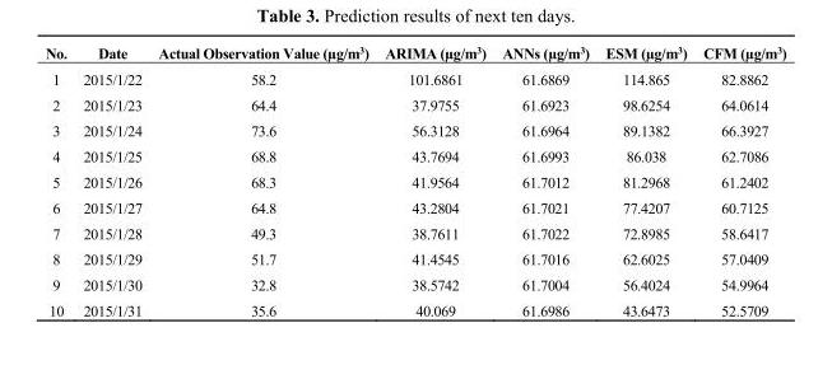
<table><thead><tr><td>No.</td><td>Date</td><td>Actual Observation Value (µg/m<sup>3</sup>)</td><td>ARIMA (µg/m<sup>3</sup>)</td><td>ANNs (µg/m<sup>3</sup>)</td><td>ESM (µg/m<sup>3</sup>)</td><td>CFM (µg/m<sup>3</sup>)</td></tr></thead><tbody><tr><td>1</td><td>2015/1/22</td><td>58.2</td><td>101.6861</td><td>61.6869</td><td>114.865</td><td>82.8862</td></tr><tr><td>2</td><td>2015/1/23</td><td>64.4</td><td>37.9755</td><td>61.6923</td><td>98.6254</td><td>64.0614</td></tr><tr><td>3</td><td>2015/1/24</td><td>73.6</td><td>56.3128</td><td>61.6964</td><td>89.1382</td><td>66.3927</td></tr><tr><td>4</td><td>2015/1/25</td><td>68.8</td><td>43.7694</td><td>61.6993</td><td>86.038</td><td>62.7086</td></tr><tr><td>5</td><td>2015/1/26</td><td>68.3</td><td>41.9564</td><td>61.7012</td><td>81.2968</td><td>61.2402</td></tr><tr><td>6</td><td>2015/1/27</td><td>64.8</td><td>43.2804</td><td>61.7021</td><td>77.4207</td><td>60.7125</td></tr><tr><td>7</td><td>2015/1/28</td><td>49.3</td><td>38.7611</td><td>61.7022</td><td>72.8985</td><td>58.6417</td></tr><tr><td>8</td><td>2015/1/29</td><td>51.7</td><td>41.4545</td><td>61.7016</td><td>62.6025</td><td>57.0409</td></tr><tr><td>9</td><td>2015/1/30</td><td>32.8</td><td>38.5742</td><td>61.7004</td><td>56.4024</td><td>54.9964</td></tr><tr><td>10</td><td>2015/1/31</td><td>35.6</td><td>40.069</td><td>61.6986</td><td>43.6473</td><td>52.5709</td></tr></tbody></table>